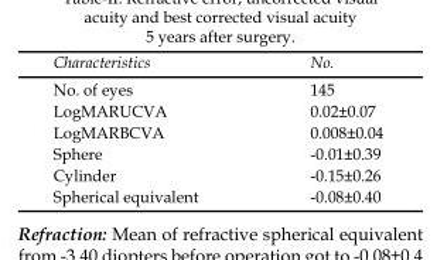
<table><thead><tr><td>Characteristics</td><td>No.</td></tr></thead><tbody><tr><td>No. of eyes</td><td>145</td></tr><tr><td>LogMARUCVA</td><td>0.02±0.07</td></tr><tr><td>LogMARBCVA</td><td>0.008±0.04</td></tr><tr><td>Sphere</td><td>-0.01±0.39</td></tr><tr><td>Cylinder</td><td>-0.15±0.26</td></tr><tr><td>Spherical equivalent</td><td>-0.08±0.40</td></tr></tbody></table>